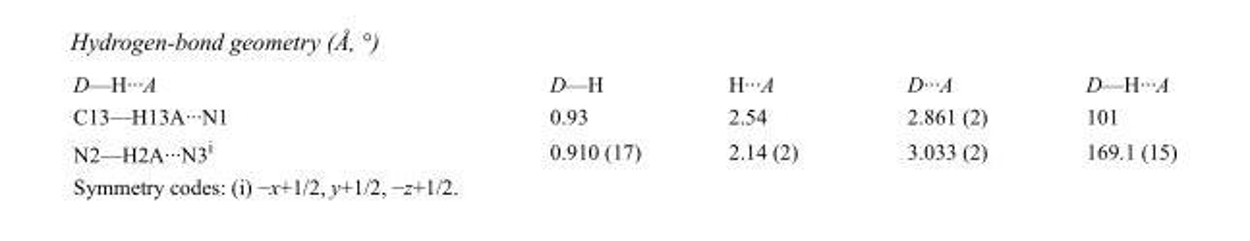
<table><tbody><tr><td>D—H···A</td><td>D—H</td><td>H···A</td><td>D···A</td><td>D—H···A</td></tr><tr><td>C13—H13A···N1</td><td>0.93</td><td>2.54</td><td>2.861 (2)</td><td>101</td></tr><tr><td>N2—H2A···N3<sup>i</sup></td><td>0.910 (17)</td><td>2.14 (2)</td><td>3.033 (2)</td><td>169.1 (15)</td></tr></tbody></table>